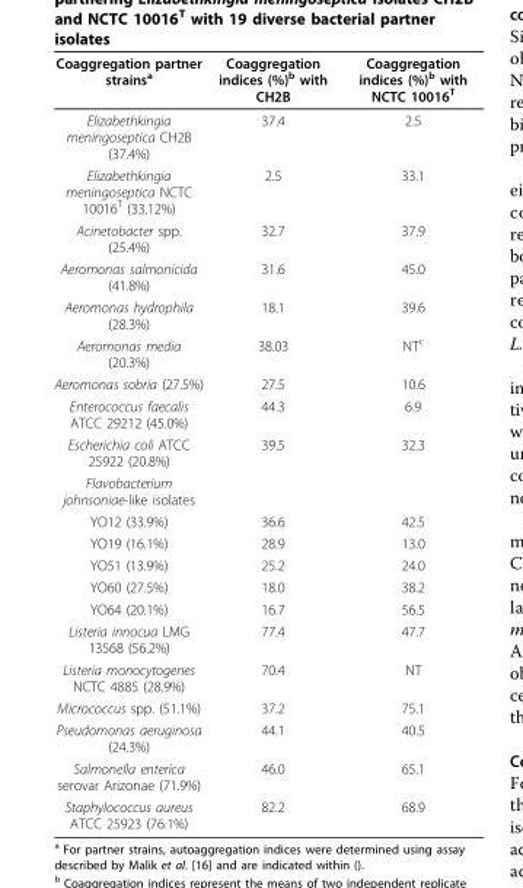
<table><thead><tr><td>Coaggregation partner strains<sup>a</sup></td><td>Coaggregation indices (%)<sup>b</sup> with CH2B</td><td>Coaggregation indices (%)<sup>b</sup> with NCTC 10016<sup>T</sup></td></tr></thead><tbody><tr><td>Elizabethkingia meningoseptica CH2B (37.4%)</td><td>37.4</td><td>2.5</td></tr><tr><td>Elizabethkingia meningoseptica NCTC 10016<sup>T</sup> (33.12%)</td><td>2.5</td><td>33.1</td></tr><tr><td>Acinetobacter spp. (25.4%)</td><td>32.7</td><td>37.9</td></tr><tr><td>Aeromonas salmonicida (41.8%)</td><td>31.6</td><td>45.0</td></tr><tr><td>Aeromonas hydrophila (28.3%)</td><td>18.1</td><td>39.6</td></tr><tr><td>Aeromonas media (20.3%)</td><td>38.03</td><td>NT<sup>c</sup></td></tr><tr><td>Aeromonas sobria (27.5%)</td><td>27.5</td><td>10.6</td></tr><tr><td>Enterococcus faecalis ATCC 29212 (45.0%)</td><td>44.3</td><td>6.9</td></tr><tr><td>Escherichia coli ATCC 25922 (20.8%)</td><td>39.5</td><td>32.3</td></tr><tr><td colspan="3">Flavobacterium johnsoniae-like isolates</td></tr><tr><td>YO12 (33.9%)</td><td>36.6</td><td>42.5</td></tr><tr><td>YO19 (16.1%)</td><td>28.9</td><td>13.0</td></tr><tr><td>YO51 (13.9%)</td><td>25.2</td><td>24.0</td></tr><tr><td>YO60 (27.5%)</td><td>18.0</td><td>38.2</td></tr><tr><td>YO64 (20.1%)</td><td>16.7</td><td>56.5</td></tr><tr><td>Listeria innocua LMG 13568 (56.2%)</td><td>77.4</td><td>47.7</td></tr><tr><td>Listeria monocytogenes NCTC 4885 (28.9%)</td><td>70.4</td><td>NT</td></tr><tr><td>Micrococcus spp. (51.1%)</td><td>37.2</td><td>75.1</td></tr><tr><td>Pseudomonas aeruginosa (24.3%)</td><td>44.1</td><td>40.5</td></tr><tr><td>Salmonella enterica serovar Arizonae (71.9%)</td><td>46.0</td><td>65.1</td></tr><tr><td>Staphylococcus aureus ATCC 25923 (76.1%)</td><td>82.2</td><td>68.9</td></tr></tbody></table>